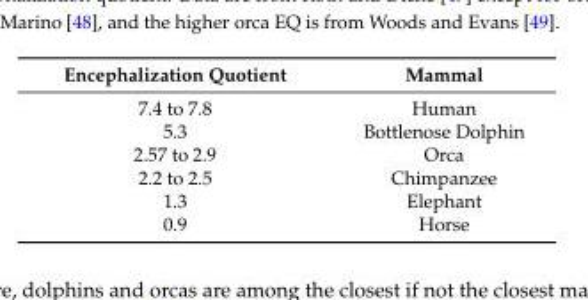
<table><thead><tr><td>Encephalization Quotient</td><td>Mammal</td></tr></thead><tbody><tr><td>7.4 to 7.8</td><td>Human</td></tr><tr><td>5.3</td><td>Bottlenose Dolphin</td></tr><tr><td>2.57 to 2.9</td><td>Orca</td></tr><tr><td>2.2 to 2.5</td><td>Chimpanzee</td></tr><tr><td>1.3</td><td>Elephant</td></tr><tr><td>0.9</td><td>Horse</td></tr></tbody></table>